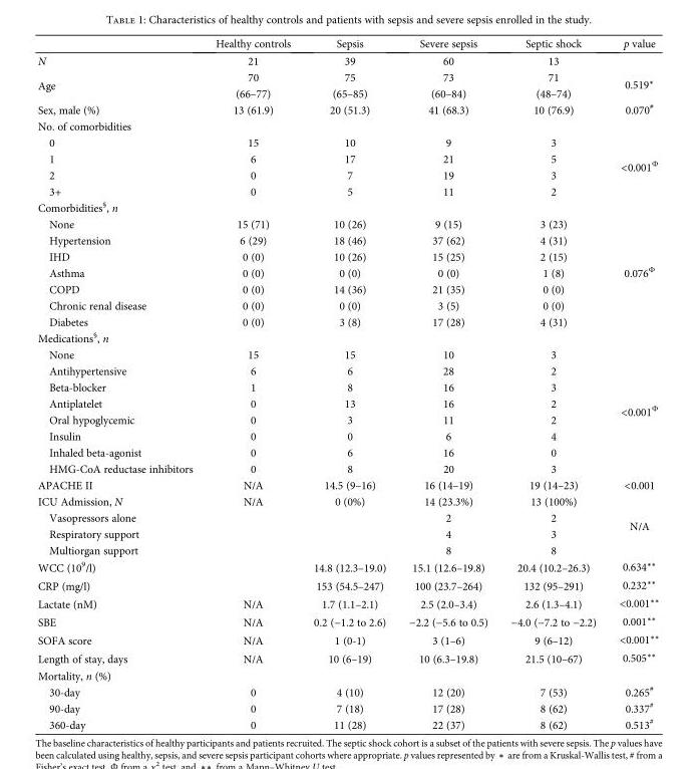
<table><thead><tr><td></td><td>Healthy controls</td><td>Sepsis</td><td>Severe sepsis</td><td>Septic shock</td><td>p value</td></tr></thead><tbody><tr><td>N</td><td>21</td><td>39</td><td>60</td><td>13</td><td></td></tr><tr><td rowspan="2">Age</td><td>70</td><td>75</td><td>73</td><td>71</td><td rowspan="2">0.519∗</td></tr><tr><td>(66–77)</td><td>(65–85)</td><td>(60–84)</td><td>(48–74)</td></tr><tr><td>Sex, male (%)</td><td>13 (61.9)</td><td>20 (51.3)</td><td>41 (68.3)</td><td>10 (76.9)</td><td>0.070<sup>#</sup></td></tr><tr><td colspan="6">No. of comorbidities</td></tr><tr><td>0</td><td>15</td><td>10</td><td>9</td><td>3</td><td rowspan="4">&lt;0.001<sup>Φ</sup></td></tr><tr><td>1</td><td>6</td><td>17</td><td>21</td><td>5</td></tr><tr><td>2</td><td>0</td><td>7</td><td>19</td><td>3</td></tr><tr><td>3+</td><td>0</td><td>5</td><td>11</td><td>2</td></tr><tr><td colspan="6">Comorbidities<sup>§</sup>, n</td></tr><tr><td>None</td><td>15 (71)</td><td>10 (26)</td><td>9 (15)</td><td>3 (23)</td><td rowspan="7">0.076<sup>Φ</sup></td></tr><tr><td>Hypertension</td><td>6 (29)</td><td>18 (46)</td><td>37 (62)</td><td>4 (31)</td></tr><tr><td>IHD</td><td>0 (0)</td><td>10 (26)</td><td>15 (25)</td><td>2 (15)</td></tr><tr><td>Asthma</td><td>0 (0)</td><td>0 (0)</td><td>0 (0)</td><td>1 (8)</td></tr><tr><td>COPD</td><td>0 (0)</td><td>14 (36)</td><td>21 (35)</td><td>0 (0)</td></tr><tr><td>Chronic renal disease</td><td>0 (0)</td><td>0 (0)</td><td>3 (5)</td><td>0 (0)</td></tr><tr><td>Diabetes</td><td>0 (0)</td><td>3 (8)</td><td>17 (28)</td><td>4 (31)</td></tr><tr><td colspan="6">Medications<sup>§</sup>, n</td></tr><tr><td>None</td><td>15</td><td>15</td><td>10</td><td>3</td><td rowspan="8">&lt;0.001<sup>Φ</sup></td></tr><tr><td>Antihypertensive</td><td>6</td><td>6</td><td>28</td><td>2</td></tr><tr><td>Beta-blocker</td><td>1</td><td>8</td><td>16</td><td>3</td></tr><tr><td>Antiplatelet</td><td>0</td><td>13</td><td>16</td><td>2</td></tr><tr><td>Oral hypoglycemic</td><td>0</td><td>3</td><td>11</td><td>2</td></tr><tr><td>Insulin</td><td>0</td><td>0</td><td>6</td><td>4</td></tr><tr><td>Inhaled beta-agonist</td><td>0</td><td>6</td><td>16</td><td>0</td></tr><tr><td>HMG-CoA reductase inhibitors</td><td>0</td><td>8</td><td>20</td><td>3</td></tr><tr><td>APACHE II</td><td>N/A</td><td>14.5 (9–16)</td><td>16 (14–19)</td><td>19 (14–23)</td><td>&lt;0.001</td></tr><tr><td>ICU Admission, N</td><td>N/A</td><td>0 (0%)</td><td>14 (23.3%)</td><td>13 (100%)</td><td rowspan="4">N/A</td></tr><tr><td>Vasopressors alone</td><td></td><td></td><td>2</td><td>2</td></tr><tr><td>Respiratory support</td><td></td><td></td><td>4</td><td>3</td></tr><tr><td>Multiorgan support</td><td></td><td></td><td>8</td><td>8</td></tr><tr><td>WCC (10<sup>9</sup>/l)</td><td></td><td>14.8 (12.3–19.0)</td><td>15.1 (12.6–19.8)</td><td>20.4 (10.2–26.3)</td><td>0.634∗∗</td></tr><tr><td>CRP (mg/l)</td><td></td><td>153 (54.5–247)</td><td>100 (23.7–264)</td><td>132 (95–291)</td><td>0.232∗∗</td></tr><tr><td>Lactate (nM)</td><td>N/A</td><td>1.7 (1.1–2.1)</td><td>2.5 (2.0–3.4)</td><td>2.6 (1.3–4.1)</td><td>&lt;0.001∗∗</td></tr><tr><td>SBE</td><td>N/A</td><td>0.2 (−1.2 to 2.6)</td><td>−2.2 (−5.6 to 0.5)</td><td>−4.0 (−7.2 to −2.2)</td><td>0.001∗∗</td></tr><tr><td>SOFA score</td><td>N/A</td><td>1 (0-1)</td><td>3 (1–6)</td><td>9 (6–12)</td><td>&lt;0.001∗∗</td></tr><tr><td>Length of stay, days</td><td>N/A</td><td>10 (6–19)</td><td>10 (6.3–19.8)</td><td>21.5 (10–67)</td><td>0.505∗∗</td></tr><tr><td colspan="6">Mortality, n (%)</td></tr><tr><td>30-day</td><td>0</td><td>4 (10)</td><td>12 (20)</td><td>7 (53)</td><td>0.265<sup>#</sup></td></tr><tr><td>90-day</td><td>0</td><td>7 (18)</td><td>17 (28)</td><td>8 (62)</td><td>0.337<sup>#</sup></td></tr><tr><td>360-day</td><td>0</td><td>11 (28)</td><td>22 (37)</td><td>8 (62)</td><td>0.513<sup>#</sup></td></tr></tbody></table>